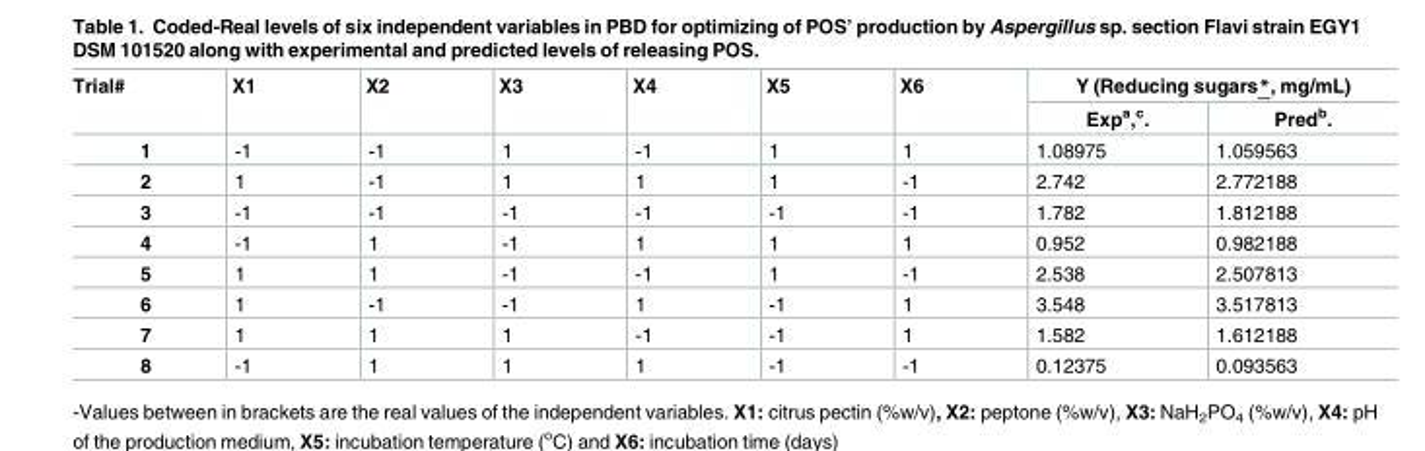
<table><thead><tr><td rowspan="2">Trial#</td><td rowspan="2">X1</td><td rowspan="2">X2</td><td rowspan="2">X3</td><td rowspan="2">X4</td><td rowspan="2">X5</td><td rowspan="2">X6</td><td colspan="2">Y (Reducing sugars*, mg/mL)</td></tr><tr><td>Exp<sup>a</sup>,<sup>c</sup>.</td><td>Pred<sup>b</sup>.</td></tr></thead><tbody><tr><td>1</td><td>-1</td><td>-1</td><td>1</td><td>-1</td><td>1</td><td>1</td><td>1.08975</td><td>1.059563</td></tr><tr><td>2</td><td>1</td><td>-1</td><td>1</td><td>1</td><td>1</td><td>-1</td><td>2.742</td><td>2.772188</td></tr><tr><td>3</td><td>-1</td><td>-1</td><td>-1</td><td>-1</td><td>-1</td><td>-1</td><td>1.782</td><td>1.812188</td></tr><tr><td>4</td><td>-1</td><td>1</td><td>-1</td><td>1</td><td>1</td><td>1</td><td>0.952</td><td>0.982188</td></tr><tr><td>5</td><td>1</td><td>1</td><td>-1</td><td>-1</td><td>1</td><td>-1</td><td>2.538</td><td>2.507813</td></tr><tr><td>6</td><td>1</td><td>-1</td><td>-1</td><td>1</td><td>-1</td><td>1</td><td>3.548</td><td>3.517813</td></tr><tr><td>7</td><td>1</td><td>1</td><td>1</td><td>-1</td><td>-1</td><td>1</td><td>1.582</td><td>1.612188</td></tr><tr><td>8</td><td>-1</td><td>1</td><td>1</td><td>1</td><td>-1</td><td>-1</td><td>0.12375</td><td>0.093563</td></tr></tbody></table>